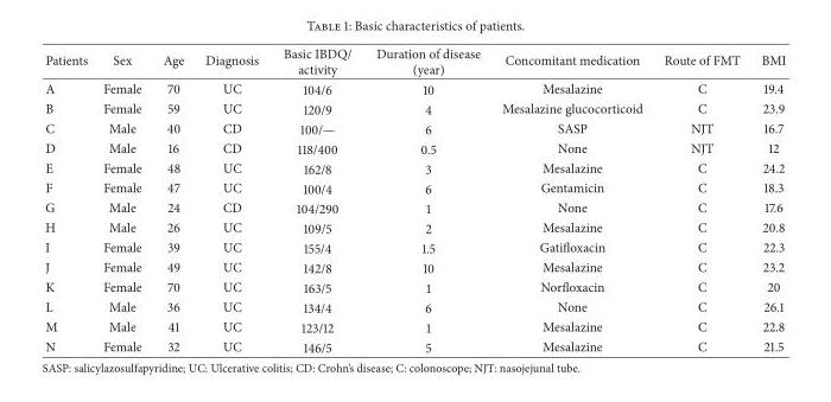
<table><thead><tr><td>Patients</td><td>Sex</td><td>Age</td><td>Diagnosis</td><td>Basic IBDQ/ activity</td><td>Duration of disease (year)</td><td>Concomitant medication</td><td>Route of FMT</td><td>BMI</td></tr></thead><tbody><tr><td>A</td><td>Female</td><td>70</td><td>UC</td><td>104/6</td><td>10</td><td>Mesalazine</td><td>C</td><td>19.4</td></tr><tr><td>B</td><td>Female</td><td>59</td><td>UC</td><td>120/9</td><td>4</td><td>Mesalazine glucocorticoid</td><td>C</td><td>23.9</td></tr><tr><td>C</td><td>Male</td><td>40</td><td>CD</td><td>100/—</td><td>6</td><td>SASP</td><td>NJT</td><td>16.7</td></tr><tr><td>D</td><td>Male</td><td>16</td><td>CD</td><td>118/400</td><td>0.5</td><td>None</td><td>NJT</td><td>12</td></tr><tr><td>E</td><td>Female</td><td>48</td><td>UC</td><td>162/8</td><td>3</td><td>Mesalazine</td><td>C</td><td>24.2</td></tr><tr><td>F</td><td>Female</td><td>47</td><td>UC</td><td>100/4</td><td>6</td><td>Gentamicin</td><td>C</td><td>18.3</td></tr><tr><td>G</td><td>Male</td><td>24</td><td>CD</td><td>104/290</td><td>1</td><td>None</td><td>C</td><td>17.6</td></tr><tr><td>H</td><td>Male</td><td>26</td><td>UC</td><td>109/5</td><td>2</td><td>Mesalazine</td><td>C</td><td>20.8</td></tr><tr><td>I</td><td>Female</td><td>39</td><td>UC</td><td>155/4</td><td>1.5</td><td>Gatifloxacin</td><td>C</td><td>22.3</td></tr><tr><td>J</td><td>Female</td><td>49</td><td>UC</td><td>142/8</td><td>10</td><td>Mesalazine</td><td>C</td><td>23.2</td></tr><tr><td>K</td><td>Female</td><td>70</td><td>UC</td><td>163/5</td><td>1</td><td>Norfloxacin</td><td>C</td><td>20</td></tr><tr><td>L</td><td>Male</td><td>36</td><td>UC</td><td>134/4</td><td>6</td><td>None</td><td>C</td><td>26.1</td></tr><tr><td>M</td><td>Male</td><td>41</td><td>UC</td><td>123/12</td><td>1</td><td>Mesalazine</td><td>C</td><td>22.8</td></tr><tr><td>N</td><td>Female</td><td>32</td><td>UC</td><td>146/5</td><td>5</td><td>Mesalazine</td><td>C</td><td>21.5</td></tr></tbody></table>